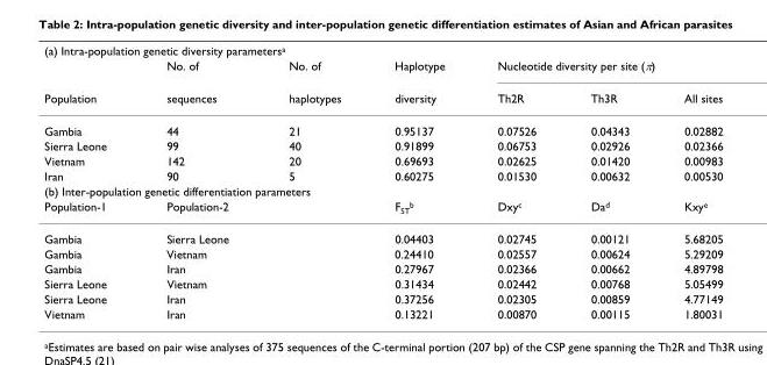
<table><thead><tr><td colspan="7">(a) Intra-population genetic diversity parameters<sup>a</sup></td></tr><tr><td rowspan="2">Population</td><td rowspan="2">No. of sequences</td><td rowspan="2">No. of haplotypes</td><td rowspan="2">Haplotype diversity</td><td colspan="3">Nucleotide diversity per site (π)</td></tr><tr><td>Th2R</td><td>Th3R</td><td>All sites</td></tr></thead><tbody><tr><td>Gambia</td><td>44</td><td>21</td><td>0.95137</td><td>0.07526</td><td>0.04343</td><td>0.02882</td></tr><tr><td>Sierra Leone</td><td>99</td><td>40</td><td>0.91899</td><td>0.06753</td><td>0.02926</td><td>0.02366</td></tr><tr><td>Vietnam</td><td>142</td><td>20</td><td>0.69693</td><td>0.02625</td><td>0.01420</td><td>0.00983</td></tr><tr><td>Iran</td><td>90</td><td>5</td><td>0.60275</td><td>0.01530</td><td>0.00632</td><td>0.00530</td></tr><tr><td colspan="7">(b) Inter-population genetic differentiation parameters</td></tr><tr><td>Population-1</td><td>Population-2</td><td></td><td>F<sub>ST</sub><sup>b</sup></td><td>Dxy<sup>c</sup></td><td>Da<sup>d</sup></td><td>Kxy<sup>e</sup></td></tr><tr><td>Gambia</td><td>Sierra Leone</td><td></td><td>0.04403</td><td>0.02745</td><td>0.00121</td><td>5.68205</td></tr><tr><td>Gambia</td><td>Vietnam</td><td></td><td>0.24410</td><td>0.02557</td><td>0.00624</td><td>5.29209</td></tr><tr><td>Gambia</td><td>Iran</td><td></td><td>0.27967</td><td>0.02366</td><td>0.00662</td><td>4.89798</td></tr><tr><td>Sierra Leone</td><td>Vietnam</td><td></td><td>0.31434</td><td>0.02442</td><td>0.00768</td><td>5.05499</td></tr><tr><td>Sierra Leone</td><td>Iran</td><td></td><td>0.37256</td><td>0.02305</td><td>0.00859</td><td>4.77149</td></tr><tr><td>Vietnam</td><td>Iran</td><td></td><td>0.13221</td><td>0.00870</td><td>0.00115</td><td>1.80031</td></tr></tbody></table>